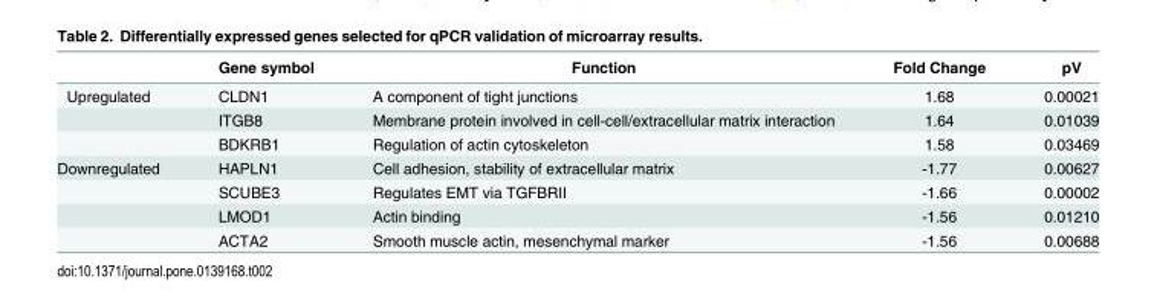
<table><thead><tr><td></td><td>Gene symbol</td><td>Function</td><td>Fold Change</td><td>pV</td></tr></thead><tbody><tr><td rowspan="3">Upregulated</td><td>CLDN1</td><td>A component of tight junctions</td><td>1.68</td><td>0.00021</td></tr><tr><td>ITGB8</td><td>Membrane protein involved in cell-cell/extracellular matrix interaction</td><td>1.64</td><td>0.01039</td></tr><tr><td>BDKRB1</td><td>Regulation of actin cytoskeleton</td><td>1.58</td><td>0.03469</td></tr><tr><td rowspan="4">Downregulated</td><td>HAPLN1</td><td>Cell adhesion, stability of extracellular matrix</td><td>-1.77</td><td>0.00627</td></tr><tr><td>SCUBE3</td><td>Regulates EMT via TGFBRII</td><td>-1.66</td><td>0.00002</td></tr><tr><td>LMOD1</td><td>Actin binding</td><td>-1.56</td><td>0.01210</td></tr><tr><td>ACTA2</td><td>Smooth muscle actin, mesenchymal marker</td><td>-1.56</td><td>0.00688</td></tr></tbody></table>